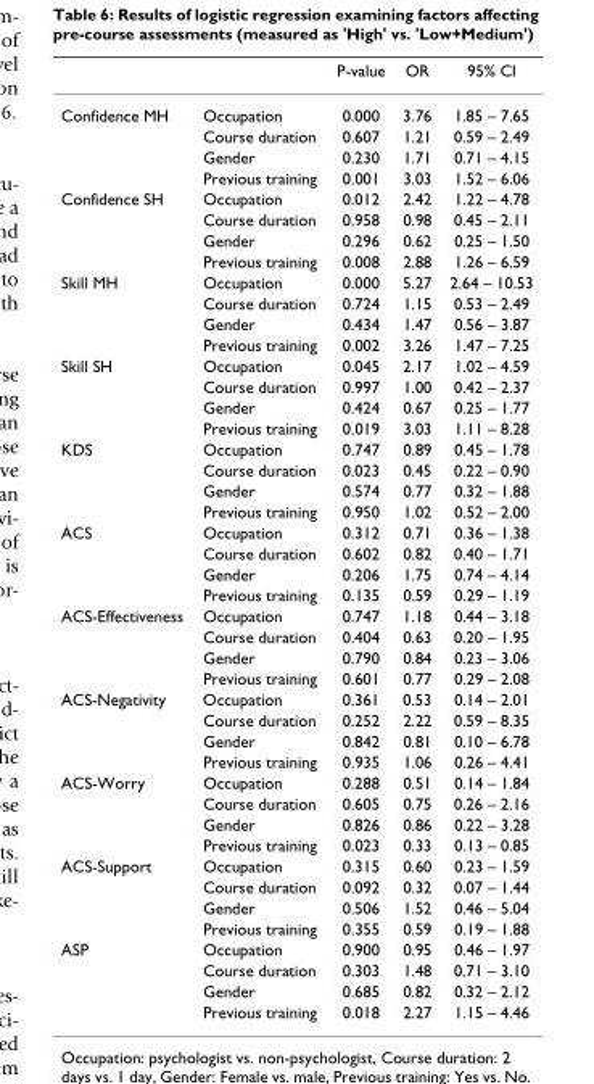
<table><thead><tr><td></td><td></td><td>P-value</td><td>OR</td><td>95% CI</td></tr></thead><tbody><tr><td rowspan="4">Confidence MH</td><td>Occupation</td><td>0.000</td><td>3.76</td><td>1.85 – 7.65</td></tr><tr><td>Course duration</td><td>0.607</td><td>1.21</td><td>0.59 – 2.49</td></tr><tr><td>Gender</td><td>0.230</td><td>1.71</td><td>0.71 – 4.15</td></tr><tr><td>Previous training</td><td>0.001</td><td>3.03</td><td>1.52 – 6.06</td></tr><tr><td rowspan="4">Confidence SH</td><td>Occupation</td><td>0.012</td><td>2.42</td><td>1.22 – 4.78</td></tr><tr><td>Course duration</td><td>0.958</td><td>0.98</td><td>0.45 – 2.11</td></tr><tr><td>Gender</td><td>0.296</td><td>0.62</td><td>0.25 – 1.50</td></tr><tr><td>Previous training</td><td>0.008</td><td>2.88</td><td>1.26 – 6.59</td></tr><tr><td rowspan="4">Skill MH</td><td>Occupation</td><td>0.000</td><td>5.27</td><td>2.64 – 10.53</td></tr><tr><td>Course duration</td><td>0.724</td><td>1.15</td><td>0.53 – 2.49</td></tr><tr><td>Gender</td><td>0.434</td><td>1.47</td><td>0.56 – 3.87</td></tr><tr><td>Previous training</td><td>0.002</td><td>3.26</td><td>1.47 – 7.25</td></tr><tr><td rowspan="4">Skill SH</td><td>Occupation</td><td>0.045</td><td>2.17</td><td>1.02 – 4.59</td></tr><tr><td>Course duration</td><td>0.997</td><td>1.00</td><td>0.42 – 2.37</td></tr><tr><td>Gender</td><td>0.424</td><td>0.67</td><td>0.25 – 1.77</td></tr><tr><td>Previous training</td><td>0.019</td><td>3.03</td><td>1.11 – 8.28</td></tr><tr><td rowspan="4">KDS</td><td>Occupation</td><td>0.747</td><td>0.89</td><td>0.45 – 1.78</td></tr><tr><td>Course duration</td><td>0.023</td><td>0.45</td><td>0.22 – 0.90</td></tr><tr><td>Gender</td><td>0.574</td><td>0.77</td><td>0.32 – 1.88</td></tr><tr><td>Previous training</td><td>0.950</td><td>1.02</td><td>0.52 – 2.00</td></tr><tr><td rowspan="4">ACS</td><td>Occupation</td><td>0.312</td><td>0.71</td><td>0.36 – 1.38</td></tr><tr><td>Course duration</td><td>0.602</td><td>0.82</td><td>0.40 – 1.71</td></tr><tr><td>Gender</td><td>0.206</td><td>1.75</td><td>0.74 – 4.14</td></tr><tr><td>Previous training</td><td>0.135</td><td>0.59</td><td>0.29 – 1.19</td></tr><tr><td rowspan="4">ACS-Effectiveness</td><td>Occupation</td><td>0.747</td><td>1.18</td><td>0.44 – 3.18</td></tr><tr><td>Course duration</td><td>0.404</td><td>0.63</td><td>0.20 – 1.95</td></tr><tr><td>Gender</td><td>0.790</td><td>0.84</td><td>0.23 – 3.06</td></tr><tr><td>Previous training</td><td>0.601</td><td>0.77</td><td>0.29 – 2.08</td></tr><tr><td rowspan="4">ACS-Negativity</td><td>Occupation</td><td>0.361</td><td>0.53</td><td>0.14 – 2.01</td></tr><tr><td>Course duration</td><td>0.252</td><td>2.22</td><td>0.59 – 8.35</td></tr><tr><td>Gender</td><td>0.842</td><td>0.81</td><td>0.10 – 6.78</td></tr><tr><td>Previous training</td><td>0.935</td><td>1.06</td><td>0.26 – 4.41</td></tr><tr><td rowspan="4">ACS-Worry</td><td>Occupation</td><td>0.288</td><td>0.51</td><td>0.14 – 1.84</td></tr><tr><td>Course duration</td><td>0.605</td><td>0.75</td><td>0.26 – 2.16</td></tr><tr><td>Gender</td><td>0.826</td><td>0.86</td><td>0.22 – 3.28</td></tr><tr><td>Previous training</td><td>0.023</td><td>0.33</td><td>0.13 – 0.85</td></tr><tr><td rowspan="4">ACS-Support</td><td>Occupation</td><td>0.315</td><td>0.60</td><td>0.23 – 1.59</td></tr><tr><td>Course duration</td><td>0.092</td><td>0.32</td><td>0.07 – 1.44</td></tr><tr><td>Gender</td><td>0.506</td><td>1.52</td><td>0.46 – 5.04</td></tr><tr><td>Previous training</td><td>0.355</td><td>0.59</td><td>0.19 – 1.88</td></tr><tr><td rowspan="4">ASP</td><td>Occupation</td><td>0.900</td><td>0.95</td><td>0.46 – 1.97</td></tr><tr><td>Course duration</td><td>0.303</td><td>1.48</td><td>0.71 – 3.10</td></tr><tr><td>Gender</td><td>0.685</td><td>0.82</td><td>0.32 – 2.12</td></tr><tr><td>Previous training</td><td>0.018</td><td>2.27</td><td>1.15 – 4.46</td></tr></tbody></table>